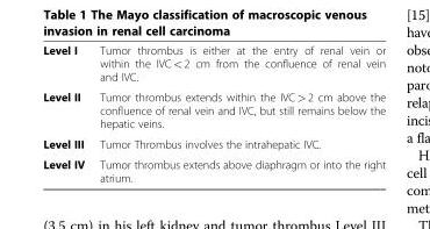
<table><tbody><tr><td>Level I</td><td>Tumor thrombus is either at the entry of renal vein or within the IVC &lt; 2 cm from the confluence of renal vein and IVC.</td></tr><tr><td>Level II</td><td>Tumor thrombus extends within the IVC &gt; 2 cm above the confluence of renal vein and IVC, but still remains below the hepatic veins.</td></tr><tr><td>Level III</td><td>Tumor Thrombus involves the intrahepatic IVC.</td></tr><tr><td>Level IV</td><td>Tumor thrombus extends above diaphragm or into the right atrium.</td></tr></tbody></table>